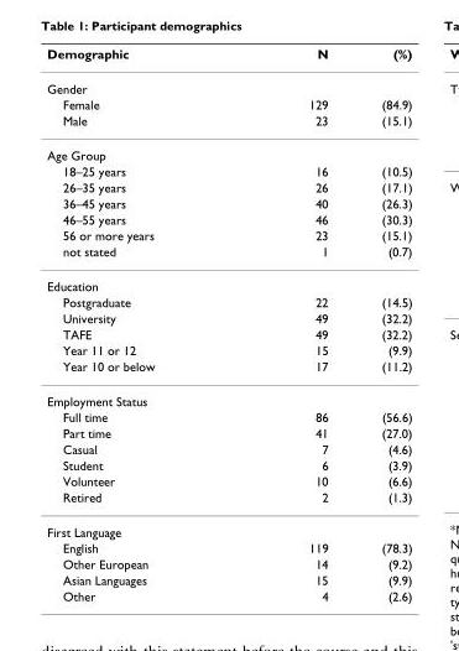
<table><thead><tr><td>Demographic</td><td>N</td><td>(%)</td></tr></thead><tbody><tr><td colspan="3">Gender</td></tr><tr><td>Female</td><td>129</td><td>(84.9)</td></tr><tr><td>Male</td><td>23</td><td>(15.1)</td></tr><tr><td colspan="3">Age Group</td></tr><tr><td>18–25 years</td><td>16</td><td>(10.5)</td></tr><tr><td>26–35 years</td><td>26</td><td>(17.1)</td></tr><tr><td>36–45 years</td><td>40</td><td>(26.3)</td></tr><tr><td>46–55 years</td><td>46</td><td>(30.3)</td></tr><tr><td>56 or more years</td><td>23</td><td>(15.1)</td></tr><tr><td>not stated</td><td>1</td><td>(0.7)</td></tr><tr><td colspan="3">Education</td></tr><tr><td>Postgraduate</td><td>22</td><td>(14.5)</td></tr><tr><td>University</td><td>49</td><td>(32.2)</td></tr><tr><td>TAFE</td><td>49</td><td>(32.2)</td></tr><tr><td>Year 11 or 12</td><td>15</td><td>(9.9)</td></tr><tr><td>Year 10 or below</td><td>17</td><td>(11.2)</td></tr><tr><td colspan="3">Employment Status</td></tr><tr><td>Full time</td><td>86</td><td>(56.6)</td></tr><tr><td>Part time</td><td>41</td><td>(27.0)</td></tr><tr><td>Casual</td><td>7</td><td>(4.6)</td></tr><tr><td>Student</td><td>6</td><td>(3.9)</td></tr><tr><td>Volunteer</td><td>10</td><td>(6.6)</td></tr><tr><td>Retired</td><td>2</td><td>(1.3)</td></tr><tr><td colspan="3">First Language</td></tr><tr><td>English</td><td>119</td><td>(78.3)</td></tr><tr><td>Other European</td><td>14</td><td>(9.2)</td></tr><tr><td>Asian Languages</td><td>15</td><td>(9.9)</td></tr><tr><td>Other</td><td>4</td><td>(2.6)</td></tr></tbody></table>